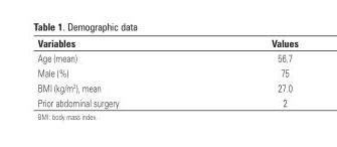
<table><thead><tr><td>Variables</td><td>Values</td></tr></thead><tbody><tr><td>Age (mean)</td><td>56.7</td></tr><tr><td>Male (%)</td><td>75</td></tr><tr><td>BMI (kg/m<sup>2</sup>), mean</td><td>27.0</td></tr><tr><td>Prior abdominal surgery</td><td>2</td></tr></tbody></table>